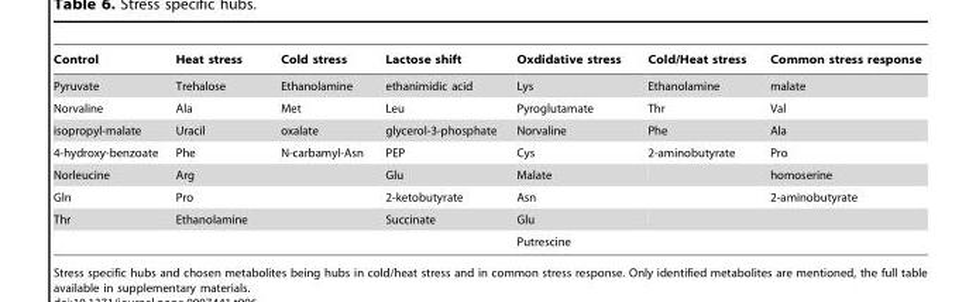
<table><thead><tr><td>Control</td><td>Heat stress</td><td>Cold stress</td><td>Lactose shift</td><td>Oxdidative stress</td><td>Cold/Heat stress</td><td>Common stress response</td></tr></thead><tbody><tr><td>Pyruvate</td><td>Trehalose</td><td>Ethanolamine</td><td>ethanimidic acid</td><td>Lys</td><td>Ethanolamine</td><td>malate</td></tr><tr><td>Norvaline</td><td>Ala</td><td>Met</td><td>Leu</td><td>Pyroglutamate</td><td>Thr</td><td>Val</td></tr><tr><td>isopropyl-malate</td><td>Uracil</td><td>oxalate</td><td>glycerol-3-phosphate</td><td>Norvaline</td><td>Phe</td><td>Ala</td></tr><tr><td>4-hydroxy-benzoate</td><td>Phe</td><td>N-carbamyl-Asn</td><td>PEP</td><td>Cys</td><td>2-aminobutyrate</td><td>Pro</td></tr><tr><td>Norleucine</td><td>Arg</td><td></td><td>Glu</td><td>Malate</td><td></td><td>homoserine</td></tr><tr><td>Gln</td><td>Pro</td><td></td><td>2-ketobutyrate</td><td>Asn</td><td></td><td>2-aminobutyrate</td></tr><tr><td rowspan="2">Thr</td><td>Ethanolamine</td><td></td><td>Succinate</td><td>Glu</td><td></td><td></td></tr><tr><td></td><td></td><td></td><td>Putrescine</td><td></td><td></td></tr></tbody></table>